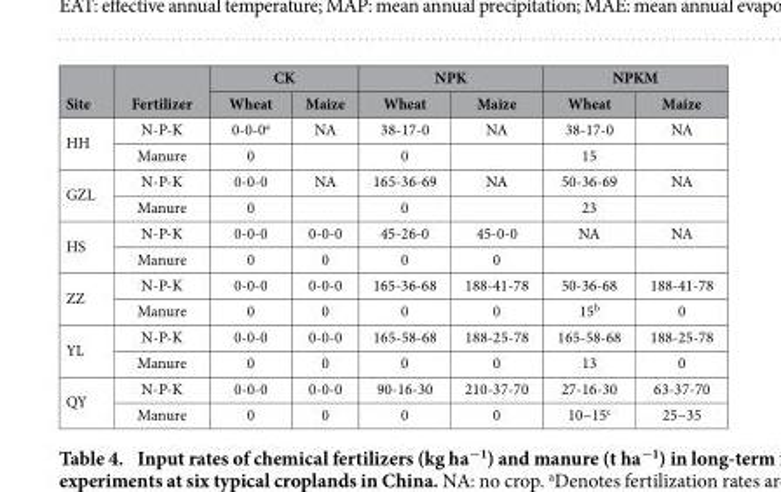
<table><thead><tr><td rowspan="2">Site</td><td rowspan="2">Fertilizer</td><td colspan="2">CK</td><td colspan="2">NPK</td><td colspan="2">NPKM</td></tr><tr><td>Wheat</td><td>Maize</td><td>Wheat</td><td>Maize</td><td>Wheat</td><td>Maize</td></tr></thead><tbody><tr><td rowspan="2">HH</td><td>N-P-K</td><td>0-0-0<sup>a</sup></td><td>NA</td><td>38-17-0</td><td>NA</td><td>38-17-0</td><td>NA</td></tr><tr><td>Manure</td><td>0</td><td></td><td>0</td><td></td><td>15</td><td></td></tr><tr><td rowspan="2">GZL</td><td>N-P-K</td><td>0-0-0</td><td>NA</td><td>165-36-69</td><td>NA</td><td>50-36-69</td><td>NA</td></tr><tr><td>Manure</td><td>0</td><td></td><td>0</td><td></td><td>23</td><td></td></tr><tr><td rowspan="2">HS</td><td>N-P-K</td><td>0-0-0</td><td>0-0-0</td><td>45-26-0</td><td>45-0-0</td><td>NA</td><td>NA</td></tr><tr><td>Manure</td><td>0</td><td>0</td><td>0</td><td>0</td><td></td><td></td></tr><tr><td rowspan="2">ZZ</td><td>N-P-K</td><td>0-0-0</td><td>0-0-0</td><td>165-36-68</td><td>188-41-78</td><td>50-36-68</td><td>188-41-78</td></tr><tr><td>Manure</td><td>0</td><td>0</td><td>0</td><td>0</td><td>15<sup>b</sup></td><td>0</td></tr><tr><td rowspan="2">YL</td><td>N-P-K</td><td>0-0-0</td><td>0-0-0</td><td>165-58-68</td><td>188-25-78</td><td>165-58-68</td><td>188-25-78</td></tr><tr><td>Manure</td><td>0</td><td>0</td><td>0</td><td>0</td><td>13</td><td>0</td></tr><tr><td rowspan="2">QY</td><td>N-P-K</td><td>0-0-0</td><td>0-0-0</td><td>90-16-30</td><td>210-37-70</td><td>27-16-30</td><td>63-37-70</td></tr><tr><td>Manure</td><td>0</td><td>0</td><td>0</td><td>0</td><td>10~15<sup>c</sup></td><td>25~35</td></tr></tbody></table>